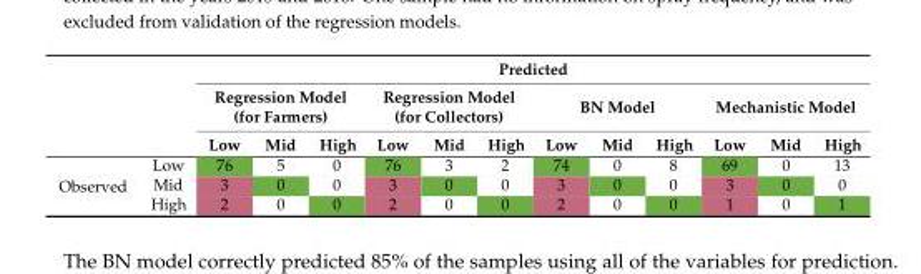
<table><thead><tr><td rowspan="3"></td><td rowspan="3"></td><td colspan="12">Predicted</td></tr><tr><td colspan="3">Regression Model (for Farmers)</td><td colspan="3">Regression Model (for Collectors)</td><td colspan="3">BN Model</td><td colspan="3">Mechanistic Model</td></tr><tr><td>Low</td><td>Mid</td><td>High</td><td>Low</td><td>Mid</td><td>High</td><td>Low</td><td>Mid</td><td>High</td><td>Low</td><td>Mid</td><td>High</td></tr></thead><tbody><tr><td rowspan="3">Observed</td><td>Low</td><td>76</td><td>5</td><td>0</td><td>76</td><td>3</td><td>2</td><td>74</td><td>0</td><td>8</td><td>69</td><td>0</td><td>13</td></tr><tr><td>Mid</td><td>3</td><td>0</td><td>0</td><td>3</td><td>0</td><td>0</td><td>3</td><td>0</td><td>0</td><td>3</td><td>0</td><td>0</td></tr><tr><td>High</td><td>2</td><td>0</td><td>0</td><td>2</td><td>0</td><td>0</td><td>2</td><td>0</td><td>0</td><td>1</td><td>0</td><td>1</td></tr></tbody></table>